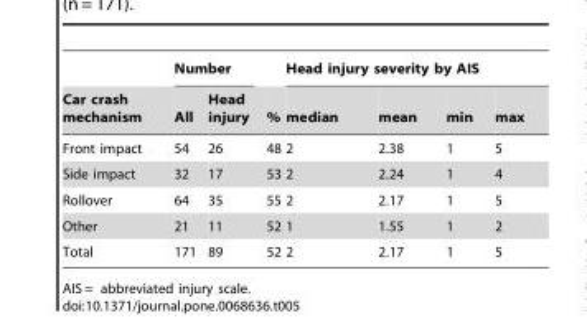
<table><thead><tr><td rowspan="2">Car crash mechanism</td><td colspan="2">Number</td><td rowspan="2">%</td><td colspan="4">Head injury severity by AIS</td></tr><tr><td>All</td><td>Head injury</td><td>median</td><td>mean</td><td>min</td><td>max</td></tr></thead><tbody><tr><td>Front impact</td><td>54</td><td>26</td><td>48</td><td>2</td><td>2.38</td><td>1</td><td>5</td></tr><tr><td>Side impact</td><td>32</td><td>17</td><td>53</td><td>2</td><td>2.24</td><td>1</td><td>4</td></tr><tr><td>Rollover</td><td>64</td><td>35</td><td>55</td><td>2</td><td>2.17</td><td>1</td><td>5</td></tr><tr><td>Other</td><td>21</td><td>11</td><td>52</td><td>1</td><td>1.55</td><td>1</td><td>2</td></tr><tr><td>Total</td><td>171</td><td>89</td><td>52</td><td>2</td><td>2.17</td><td>1</td><td>5</td></tr></tbody></table>